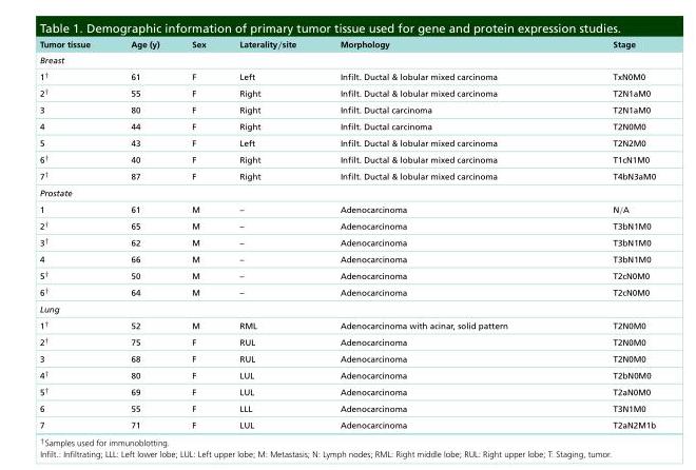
<table><thead><tr><td>Tumor tissue</td><td>Age (y)</td><td>Sex</td><td>Laterality/site</td><td>Morphology</td><td>Stage</td></tr></thead><tbody><tr><td colspan="6">Breast</td></tr><tr><td>1<sup>†</sup></td><td>61</td><td>F</td><td>Left</td><td>Infilt. Ductal &amp; lobular mixed carcinoma</td><td>TxN0M0</td></tr><tr><td>2<sup>†</sup></td><td>55</td><td>F</td><td>Right</td><td>Infilt. Ductal &amp; lobular mixed carcinoma</td><td>T2N1aM0</td></tr><tr><td>3</td><td>80</td><td>F</td><td>Right</td><td>Infilt. Ductal carcinoma</td><td>T2N1aM0</td></tr><tr><td>4</td><td>44</td><td>F</td><td>Right</td><td>Infilt. Ductal carcinoma</td><td>T2N0M0</td></tr><tr><td>5</td><td>43</td><td>F</td><td>Left</td><td>Infilt. Ductal &amp; lobular mixed carcinoma</td><td>T2N2M0</td></tr><tr><td>6<sup>†</sup></td><td>40</td><td>F</td><td>Right</td><td>Infilt. Ductal &amp; lobular mixed carcinoma</td><td>T1cN1M0</td></tr><tr><td>7<sup>†</sup></td><td>87</td><td>F</td><td>Right</td><td>Infilt. Ductal &amp; lobular mixed carcinoma</td><td>T4bN3aM0</td></tr><tr><td colspan="6">Prostate</td></tr><tr><td>1</td><td>61</td><td>M</td><td>–</td><td>Adenocarcinoma</td><td>N/A</td></tr><tr><td>2<sup>†</sup></td><td>65</td><td>M</td><td>–</td><td>Adenocarcinoma</td><td>T3bN1M0</td></tr><tr><td>3<sup>†</sup></td><td>62</td><td>M</td><td>–</td><td>Adenocarcinoma</td><td>T3bN1M0</td></tr><tr><td>4</td><td>66</td><td>M</td><td>–</td><td>Adenocarcinoma</td><td>T3bN1M0</td></tr><tr><td>5<sup>†</sup></td><td>50</td><td>M</td><td>–</td><td>Adenocarcinoma</td><td>T2cN0M0</td></tr><tr><td>6<sup>†</sup></td><td>64</td><td>M</td><td>–</td><td>Adenocarcinoma</td><td>T2cN0M0</td></tr><tr><td colspan="6">Lung</td></tr><tr><td>1<sup>†</sup></td><td>52</td><td>M</td><td>RML</td><td>Adenocarcinoma with acinar, solid pattern</td><td>T2N0M0</td></tr><tr><td>2<sup>†</sup></td><td>75</td><td>F</td><td>RUL</td><td>Adenocarcinoma</td><td>T2N0M0</td></tr><tr><td>3</td><td>68</td><td>F</td><td>RUL</td><td>Adenocarcinoma</td><td>T2N0M0</td></tr><tr><td>4<sup>†</sup></td><td>80</td><td>F</td><td>LUL</td><td>Adenocarcinoma</td><td>T2bN0M0</td></tr><tr><td>5<sup>†</sup></td><td>69</td><td>F</td><td>LUL</td><td>Adenocarcinoma</td><td>T2aN0M0</td></tr><tr><td>6</td><td>55</td><td>F</td><td>LLL</td><td>Adenocarcinoma</td><td>T3N1M0</td></tr><tr><td>7</td><td>71</td><td>F</td><td>LUL</td><td>Adenocarcinoma</td><td>T2aN2M1b</td></tr></tbody></table>